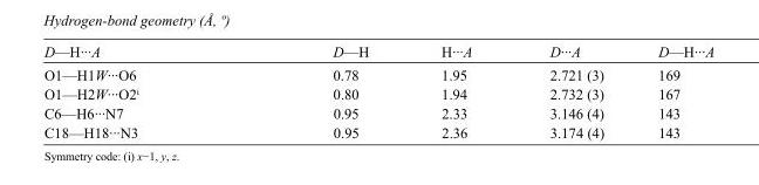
<table><tbody><tr><td>D—H···A</td><td>D—H</td><td>H···A</td><td>D···A</td><td>D—H···A</td></tr><tr><td>O1—H1W···O6</td><td>0.78</td><td>1.95</td><td>2.721 (3)</td><td>169</td></tr><tr><td>O1—H2W···O2<sup>i</sup></td><td>0.80</td><td>1.94</td><td>2.732 (3)</td><td>167</td></tr><tr><td>C6—H6···N7</td><td>0.95</td><td>2.33</td><td>3.146 (4)</td><td>143</td></tr><tr><td>C18—H18···N3</td><td>0.95</td><td>2.36</td><td>3.174 (4)</td><td>143</td></tr></tbody></table>